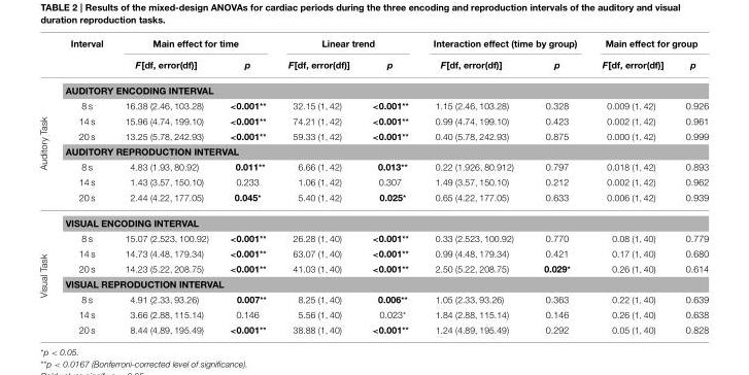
<table><thead><tr><td rowspan="2"></td><td rowspan="2">Interval</td><td colspan="2">Main effect for time</td><td colspan="2">Linear trend</td><td colspan="2">Interaction effect (time by group)</td><td colspan="2">Main effect for group</td></tr><tr><td>F[df, error(df)]</td><td>p</td><td>F[df, error(df)]</td><td>p</td><td>F[df, error(df)]</td><td>p</td><td>F[df, error(df)]</td><td>p</td></tr></thead><tbody><tr><td rowspan="8">Auditory Task</td><td colspan="9">AUDITORY ENCODING INTERVAL</td></tr><tr><td>8 s</td><td>16.38 (2.46, 103.28)</td><td>&lt;0.001**</td><td>32.15 (1, 42)</td><td>&lt;0.001**</td><td>1.15 (2.46, 103.28)</td><td>0.328</td><td>0.009 (1, 42)</td><td>0.926</td></tr><tr><td>14 s</td><td>15.96 (4.74, 199.10)</td><td>&lt;0.001**</td><td>74.21 (1, 42)</td><td>&lt;0.001**</td><td>0.99 (4.74, 199.10)</td><td>0.423</td><td>0.002 (1, 42)</td><td>0.961</td></tr><tr><td>20 s</td><td>13.25 (5.78, 242.93)</td><td>&lt;0.001**</td><td>59.33 (1, 42)</td><td>&lt;0.001**</td><td>0.40 (5.78, 242.93)</td><td>0.875</td><td>0.000 (1, 42)</td><td>0.999</td></tr><tr><td colspan="9">AUDITORY REPRODUCTION INTERVAL</td></tr><tr><td>8 s</td><td>4.83 (1.93, 80.92)</td><td>0.011**</td><td>6.66 (1, 42)</td><td>0.013**</td><td>0.22 (1.926, 80.912)</td><td>0.797</td><td>0.018 (1, 42)</td><td>0.893</td></tr><tr><td>14 s</td><td>1.43 (3.57, 150.10)</td><td>0.233</td><td>1.06 (1, 42)</td><td>0.307</td><td>1.49 (3.57, 150.10)</td><td>0.212</td><td>0.002 (1, 42)</td><td>0.962</td></tr><tr><td>20 s</td><td>2.44 (4.22, 177.05)</td><td>0.045*</td><td>5.40 (1, 42)</td><td>0.025*</td><td>0.65 (4.22, 177.05)</td><td>0.633</td><td>0.006 (1, 42)</td><td>0.939</td></tr><tr><td rowspan="8">Visual Task</td><td colspan="9">VISUAL ENCODING INTERVAL</td></tr><tr><td>8 s</td><td>15.07 (2.523, 100.92)</td><td>&lt;0.001**</td><td>26.28 (1, 40)</td><td>&lt;0.001**</td><td>0.33 (2.523, 100.92)</td><td>0.770</td><td>0.08 (1, 40)</td><td>0.779</td></tr><tr><td>14 s</td><td>14.73 (4.48, 179.34)</td><td>&lt;0.001**</td><td>63.07 (1, 40)</td><td>&lt;0.001**</td><td>0.99 (4.48, 179.34)</td><td>0.421</td><td>0.17 (1, 40)</td><td>0.680</td></tr><tr><td>20 s</td><td>14.23 (5.22, 208.75)</td><td>&lt;0.001**</td><td>41.03 (1, 40)</td><td>&lt;0.001**</td><td>2.50 (5.22, 208.75)</td><td>0.029*</td><td>0.26 (1, 40)</td><td>0.614</td></tr><tr><td colspan="9">VISUAL REPRODUCTION INTERVAL</td></tr><tr><td>8 s</td><td>4.91 (2.33, 93.26)</td><td>0.007**</td><td>8.25 (1, 40)</td><td>0.006**</td><td>1.05 (2.33, 93.26)</td><td>0.363</td><td>0.22 (1, 40)</td><td>0.639</td></tr><tr><td>14 s</td><td>3.66 (2.88, 115.14)</td><td>0.146</td><td>5.56 (1, 40)</td><td>0.023*</td><td>1.84 (2.88, 115.14)</td><td>0.146</td><td>0.26 (1, 40)</td><td>0.638</td></tr><tr><td>20 s</td><td>8.44 (4.89, 195.49)</td><td>&lt;0.001**</td><td>38.88 (1, 40)</td><td>&lt;0.001**</td><td>1.24 (4.89, 195.49)</td><td>0.292</td><td>0.05 (1, 40)</td><td>0.828</td></tr></tbody></table>